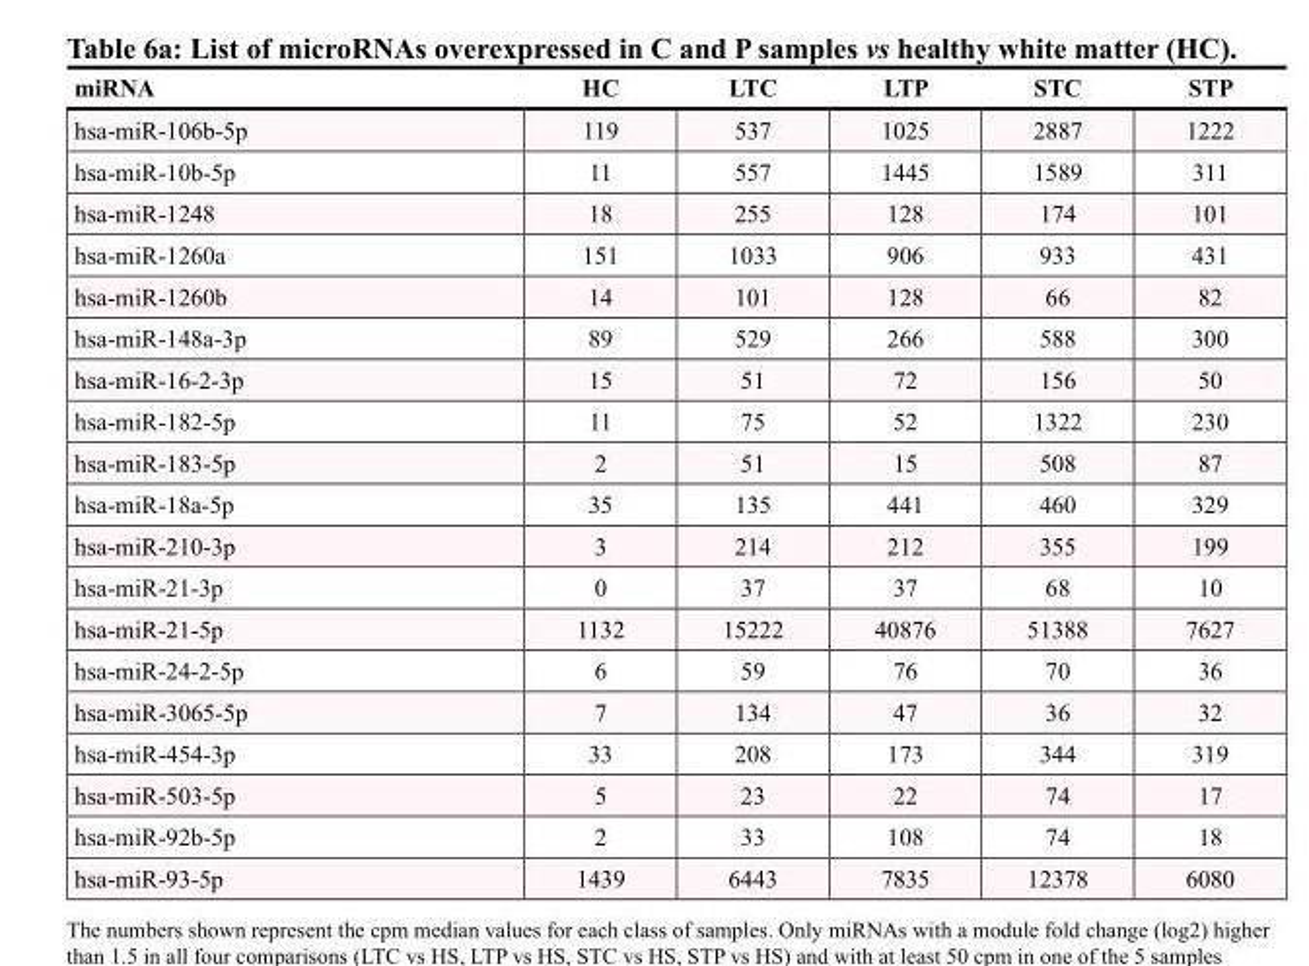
<table><thead><tr><td>miRNA</td><td>HC</td><td>LTC</td><td>LTP</td><td>STC</td><td>STP</td></tr></thead><tbody><tr><td>hsa-miR-106b-5p</td><td>119</td><td>537</td><td>1025</td><td>2887</td><td>1222</td></tr><tr><td>hsa-miR-10b-5p</td><td>11</td><td>557</td><td>1445</td><td>1589</td><td>311</td></tr><tr><td>hsa-miR-1248</td><td>18</td><td>255</td><td>128</td><td>174</td><td>101</td></tr><tr><td>hsa-miR-1260a</td><td>151</td><td>1033</td><td>906</td><td>933</td><td>431</td></tr><tr><td>hsa-miR-1260b</td><td>14</td><td>101</td><td>128</td><td>66</td><td>82</td></tr><tr><td>hsa-miR-148a-3p</td><td>89</td><td>529</td><td>266</td><td>588</td><td>300</td></tr><tr><td>hsa-miR-16-2-3p</td><td>15</td><td>51</td><td>72</td><td>156</td><td>50</td></tr><tr><td>hsa-miR-182-5p</td><td>11</td><td>75</td><td>52</td><td>1322</td><td>230</td></tr><tr><td>hsa-miR-183-5p</td><td>2</td><td>51</td><td>15</td><td>508</td><td>87</td></tr><tr><td>hsa-miR-18a-5p</td><td>35</td><td>135</td><td>441</td><td>460</td><td>329</td></tr><tr><td>hsa-miR-210-3p</td><td>3</td><td>214</td><td>212</td><td>355</td><td>199</td></tr><tr><td>hsa-miR-21-3p</td><td>0</td><td>37</td><td>37</td><td>68</td><td>10</td></tr><tr><td>hsa-miR-21-5p</td><td>1132</td><td>15222</td><td>40876</td><td>51388</td><td>7627</td></tr><tr><td>hsa-miR-24-2-5p</td><td>6</td><td>59</td><td>76</td><td>70</td><td>36</td></tr><tr><td>hsa-miR-3065-5p</td><td>7</td><td>134</td><td>47</td><td>36</td><td>32</td></tr><tr><td>hsa-miR-454-3p</td><td>33</td><td>208</td><td>173</td><td>344</td><td>319</td></tr><tr><td>hsa-miR-503-5p</td><td>5</td><td>23</td><td>22</td><td>74</td><td>17</td></tr><tr><td>hsa-miR-92b-5p</td><td>2</td><td>33</td><td>108</td><td>74</td><td>18</td></tr><tr><td>hsa-miR-93-5p</td><td>1439</td><td>6443</td><td>7835</td><td>12378</td><td>6080</td></tr></tbody></table>